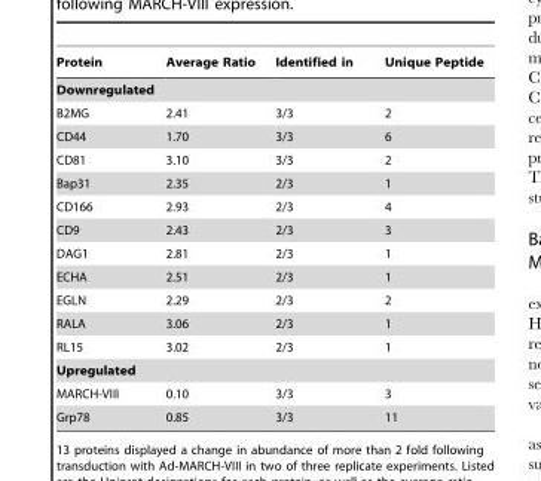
<table><thead><tr><td>Protein</td><td>Average Ratio</td><td>Identified in</td><td>Unique Peptide</td></tr></thead><tbody><tr><td colspan="4">Downregulated</td></tr><tr><td>B2MG</td><td>2.41</td><td>3/3</td><td>2</td></tr><tr><td>CD44</td><td>1.70</td><td>3/3</td><td>6</td></tr><tr><td>CD81</td><td>3.10</td><td>3/3</td><td>2</td></tr><tr><td>Bap31</td><td>2.35</td><td>2/3</td><td>1</td></tr><tr><td>CD166</td><td>2.93</td><td>2/3</td><td>4</td></tr><tr><td>CD9</td><td>2.43</td><td>2/3</td><td>3</td></tr><tr><td>DAG1</td><td>2.81</td><td>2/3</td><td>1</td></tr><tr><td>ECHA</td><td>2.51</td><td>2/3</td><td>1</td></tr><tr><td>EGLN</td><td>2.29</td><td>2/3</td><td>2</td></tr><tr><td>RALA</td><td>3.06</td><td>2/3</td><td>1</td></tr><tr><td>RL15</td><td>3.02</td><td>2/3</td><td>1</td></tr><tr><td colspan="4">Upregulated</td></tr><tr><td>MARCH-VIII</td><td>0.10</td><td>3/3</td><td>3</td></tr><tr><td>Grp78</td><td>0.85</td><td>3/3</td><td>11</td></tr></tbody></table>